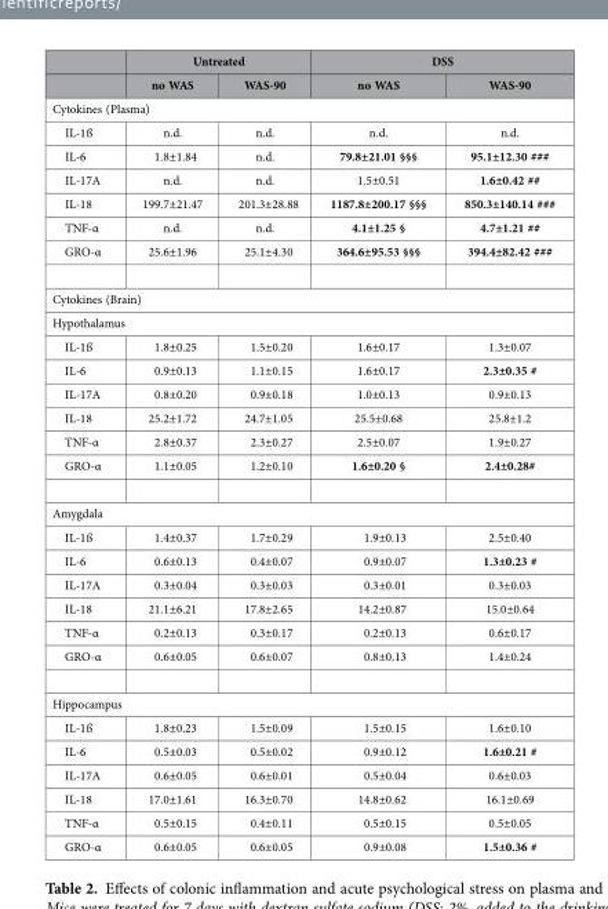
<table><thead><tr><td rowspan="2"></td><td colspan="2">Untreated</td><td colspan="2">DSS</td></tr><tr><td>no WAS</td><td>WAS-90</td><td>no WAS</td><td>WAS-90</td></tr></thead><tbody><tr><td colspan="5">Cytokines (Plasma)</td></tr><tr><td>IL-1ß</td><td>n.d.</td><td>n.d.</td><td>n.d.</td><td>n.d.</td></tr><tr><td>IL-6</td><td>1.8±1.84</td><td>n.d.</td><td>79.8±21.01 §§§</td><td>95.1±12.30 ###</td></tr><tr><td>IL-17A</td><td>n.d.</td><td>n.d.</td><td>1.5±0.51</td><td>1.6±0.42 ##</td></tr><tr><td>IL-18</td><td>199.7±21.47</td><td>201.3±28.88</td><td>1187.8±200.17 §§§</td><td>850.3±140.14 ###</td></tr><tr><td>TNF-α</td><td>n.d.</td><td>n.d.</td><td>4.1±1.25 §</td><td>4.7±1.21 ##</td></tr><tr><td>GRO-α</td><td>25.6±1.96</td><td>25.1±4.30</td><td>364.6±95.53 §§§</td><td>394.4±82.42 ###</td></tr><tr><td colspan="5">Cytokines (Brain)</td></tr><tr><td colspan="5">Hypothalamus</td></tr><tr><td>IL-1ß</td><td>1.8±0.25</td><td>1.5±0.20</td><td>1.6±0.17</td><td>1.3±0.07</td></tr><tr><td>IL-6</td><td>0.9±0.13</td><td>1.1±0.15</td><td>1.6±0.17</td><td>2.3±0.35 #</td></tr><tr><td>IL-17A</td><td>0.8±0.20</td><td>0.9±0.18</td><td>1.0±0.13</td><td>0.9±0.13</td></tr><tr><td>IL-18</td><td>25.2±1.72</td><td>24.7±1.05</td><td>25.5±0.68</td><td>25.8±1.2</td></tr><tr><td>TNF-α</td><td>2.8±0.37</td><td>2.3±0.27</td><td>2.5±0.07</td><td>1.9±0.27</td></tr><tr><td>GRO-α</td><td>1.1±0.05</td><td>1.2±0.10</td><td>1.6±0.20 §</td><td>2.4±0.28#</td></tr><tr><td colspan="5">Amygdala</td></tr><tr><td>IL-1ß</td><td>1.4±0.37</td><td>1.7±0.29</td><td>1.9±0.13</td><td>2.5±0.40</td></tr><tr><td>IL-6</td><td>0.6±0.13</td><td>0.4±0.07</td><td>0.9±0.07</td><td>1.3±0.23 #</td></tr><tr><td>IL-17A</td><td>0.3±0.04</td><td>0.3±0.03</td><td>0.3±0.01</td><td>0.3±0.03</td></tr><tr><td>IL-18</td><td>21.1±6.21</td><td>17.8±2.65</td><td>14.2±0.87</td><td>15.0±0.64</td></tr><tr><td>TNF-α</td><td>0.2±0.13</td><td>0.3±0.17</td><td>0.2±0.13</td><td>0.6±0.17</td></tr><tr><td>GRO-α</td><td>0.6±0.05</td><td>0.6±0.07</td><td>0.8±0.13</td><td>1.4±0.24</td></tr><tr><td colspan="5">Hippocampus</td></tr><tr><td>IL-1ß</td><td>1.8±0.23</td><td>1.5±0.09</td><td>1.5±0.15</td><td>1.6±0.10</td></tr><tr><td>IL-6</td><td>0.5±0.03</td><td>0.5±0.02</td><td>0.9±0.12</td><td>1.6±0.21 #</td></tr><tr><td>IL-17A</td><td>0.6±0.05</td><td>0.6±0.01</td><td>0.5±0.04</td><td>0.6±0.03</td></tr><tr><td>IL-18</td><td>17.0±1.61</td><td>16.3±0.70</td><td>14.8±0.62</td><td>16.1±0.69</td></tr><tr><td>TNF-α</td><td>0.5±0.15</td><td>0.4±0.11</td><td>0.5±0.15</td><td>0.5±0.05</td></tr><tr><td>GRO-α</td><td>0.6±0.05</td><td>0.6±0.05</td><td>0.9±0.08</td><td>1.5±0.36 #</td></tr></tbody></table>